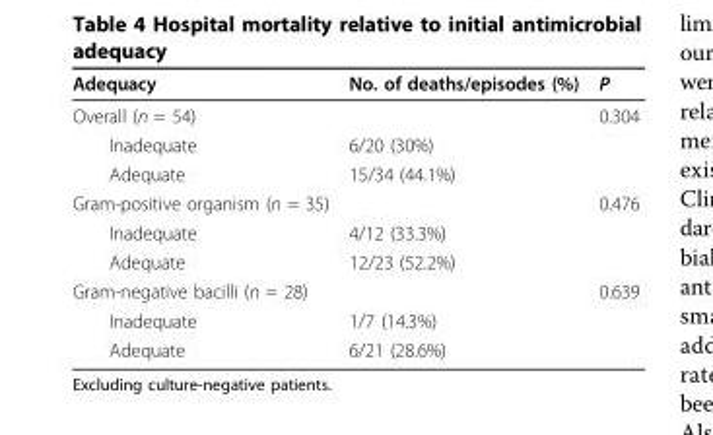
<table><thead><tr><td>Adequacy</td><td>No. of deaths/episodes (%)</td><td>P</td></tr></thead><tbody><tr><td>Overall (n = 54)</td><td></td><td>0.304</td></tr><tr><td>Inadequate</td><td>6/20 (30%)</td><td></td></tr><tr><td>Adequate</td><td>15/34 (44.1%)</td><td></td></tr><tr><td>Gram-positive organism (n = 35)</td><td></td><td>0.476</td></tr><tr><td>Inadequate</td><td>4/12 (33.3%)</td><td></td></tr><tr><td>Adequate</td><td>12/23 (52.2%)</td><td></td></tr><tr><td>Gram-negative bacilli (n = 28)</td><td></td><td>0.639</td></tr><tr><td>Inadequate</td><td>1/7 (14.3%)</td><td></td></tr><tr><td>Adequate</td><td>6/21 (28.6%)</td><td></td></tr></tbody></table>